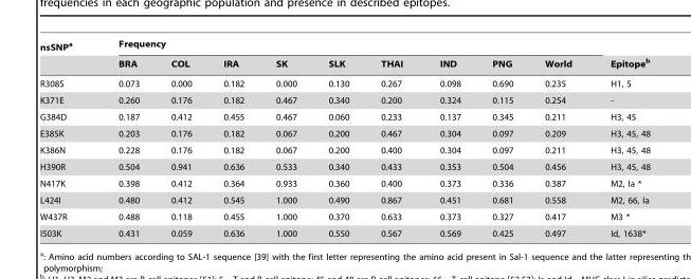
<table><thead><tr><td rowspan="2">nsSNP<sup>a</sup></td><td colspan="9">Frequency</td><td rowspan="2">Epitope<sup>b</sup></td></tr><tr><td>BRA</td><td>COL</td><td>IRA</td><td>SK</td><td>SLK</td><td>THAI</td><td>IND</td><td>PNG</td><td>World</td></tr></thead><tbody><tr><td>R308S</td><td>0.073</td><td>0.000</td><td>0.182</td><td>0.000</td><td>0.130</td><td>0.267</td><td>0.098</td><td>0.690</td><td>0.235</td><td>H1, 5</td></tr><tr><td>K371E</td><td>0.260</td><td>0.176</td><td>0.182</td><td>0.467</td><td>0.340</td><td>0.200</td><td>0.324</td><td>0.115</td><td>0.254</td><td>-</td></tr><tr><td>G384D</td><td>0.187</td><td>0.412</td><td>0.455</td><td>0.467</td><td>0.060</td><td>0.233</td><td>0.137</td><td>0.345</td><td>0.211</td><td>H3, 45</td></tr><tr><td>E385K</td><td>0.203</td><td>0.176</td><td>0.182</td><td>0.067</td><td>0.200</td><td>0.467</td><td>0.304</td><td>0.097</td><td>0.209</td><td>H3, 45, 48</td></tr><tr><td>K386N</td><td>0.228</td><td>0.176</td><td>0.182</td><td>0.067</td><td>0.200</td><td>0.400</td><td>0.304</td><td>0.097</td><td>0.211</td><td>H3, 45, 48</td></tr><tr><td>H390R</td><td>0.504</td><td>0.941</td><td>0.636</td><td>0.533</td><td>0.340</td><td>0.433</td><td>0.353</td><td>0.504</td><td>0.456</td><td>H3, 45, 48</td></tr><tr><td>N417K</td><td>0.398</td><td>0.412</td><td>0.364</td><td>0.933</td><td>0.360</td><td>0.400</td><td>0.373</td><td>0.336</td><td>0.387</td><td>M2, Ia *</td></tr><tr><td>L424I</td><td>0.480</td><td>0.412</td><td>0.545</td><td>1.000</td><td>0.490</td><td>0.867</td><td>0.451</td><td>0.681</td><td>0.558</td><td>M2, 66, Ia</td></tr><tr><td>W437R</td><td>0.488</td><td>0.118</td><td>0.455</td><td>1.000</td><td>0.370</td><td>0.633</td><td>0.373</td><td>0.327</td><td>0.417</td><td>M3 *</td></tr><tr><td>I503K</td><td>0.431</td><td>0.059</td><td>0.636</td><td>1.000</td><td>0.550</td><td>0.567</td><td>0.569</td><td>0.425</td><td>0.497</td><td>Id, 1638*</td></tr></tbody></table>